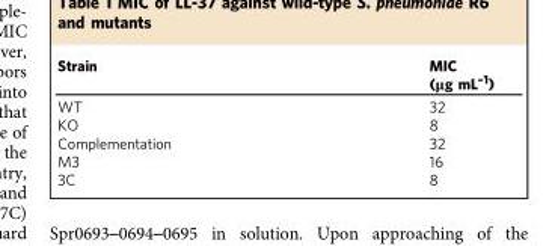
<table><thead><tr><td>Strain</td><td>MIC (μg mL<sup>–1</sup>)</td></tr></thead><tbody><tr><td>WT</td><td>32</td></tr><tr><td>KO</td><td>8</td></tr><tr><td>Complementation</td><td>32</td></tr><tr><td>M3</td><td>16</td></tr><tr><td>3C</td><td>8</td></tr></tbody></table>